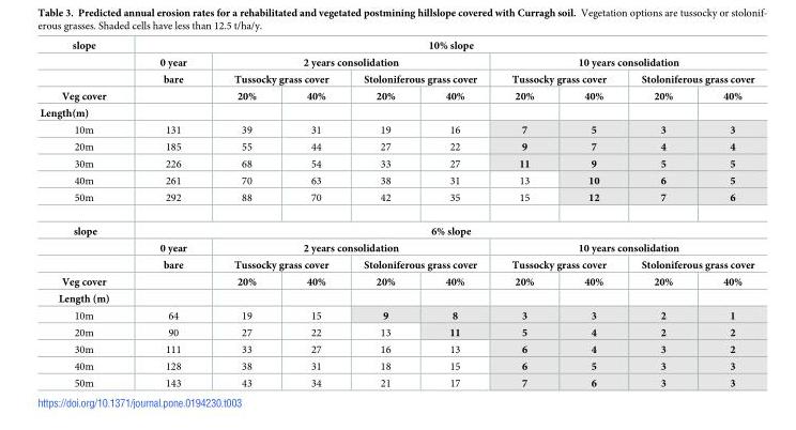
<table><tbody><tr><td rowspan="3">slope</td><td colspan="9">10% slope</td></tr><tr><td>0 year</td><td colspan="4">2 years consolidation</td><td colspan="4">10 years consolidation</td></tr><tr><td>bare</td><td colspan="2">Tussocky grass cover</td><td colspan="2">Stoloniferous grass cover</td><td colspan="2">Tussocky grass cover</td><td colspan="2">Stoloniferous grass cover</td></tr><tr><td>Veg cover</td><td></td><td>20%</td><td>40%</td><td>20%</td><td>40%</td><td>20%</td><td>40%</td><td>20%</td><td>40%</td></tr><tr><td colspan="10">Length(m)</td></tr><tr><td>10m</td><td>131</td><td>39</td><td>31</td><td>19</td><td>16</td><td>7</td><td>5</td><td>3</td><td>3</td></tr><tr><td>20m</td><td>185</td><td>55</td><td>44</td><td>27</td><td>22</td><td>9</td><td>7</td><td>4</td><td>4</td></tr><tr><td>30m</td><td>226</td><td>68</td><td>54</td><td>33</td><td>27</td><td>11</td><td>9</td><td>5</td><td>5</td></tr><tr><td>40m</td><td>261</td><td>70</td><td>63</td><td>38</td><td>31</td><td>13</td><td>10</td><td>6</td><td>5</td></tr><tr><td>50m</td><td>292</td><td>88</td><td>70</td><td>42</td><td>35</td><td>15</td><td>12</td><td>7</td><td>6</td></tr><tr><td rowspan="3">slope</td><td colspan="9">6% slope</td></tr><tr><td>0 year</td><td colspan="4">2 years consolidation</td><td colspan="4">10 years consolidation</td></tr><tr><td>bare</td><td colspan="2">Tussocky grass cover</td><td colspan="2">Stoloniferous grass cover</td><td colspan="2">Tussocky grass cover</td><td colspan="2">Stoloniferous grass cover</td></tr><tr><td>Veg cover</td><td></td><td>20%</td><td>40%</td><td>20%</td><td>40%</td><td>20%</td><td>40%</td><td>20%</td><td>40%</td></tr><tr><td colspan="10">Length (m)</td></tr><tr><td>10m</td><td>64</td><td>19</td><td>15</td><td>9</td><td>8</td><td>3</td><td>3</td><td>2</td><td>1</td></tr><tr><td>20m</td><td>90</td><td>27</td><td>22</td><td>13</td><td>11</td><td>5</td><td>4</td><td>2</td><td>2</td></tr><tr><td>30m</td><td>111</td><td>33</td><td>27</td><td>16</td><td>13</td><td>6</td><td>4</td><td>3</td><td>2</td></tr><tr><td>40m</td><td>128</td><td>38</td><td>31</td><td>18</td><td>15</td><td>6</td><td>5</td><td>3</td><td>3</td></tr><tr><td>50m</td><td>143</td><td>43</td><td>34</td><td>21</td><td>17</td><td>7</td><td>6</td><td>3</td><td>3</td></tr></tbody></table>